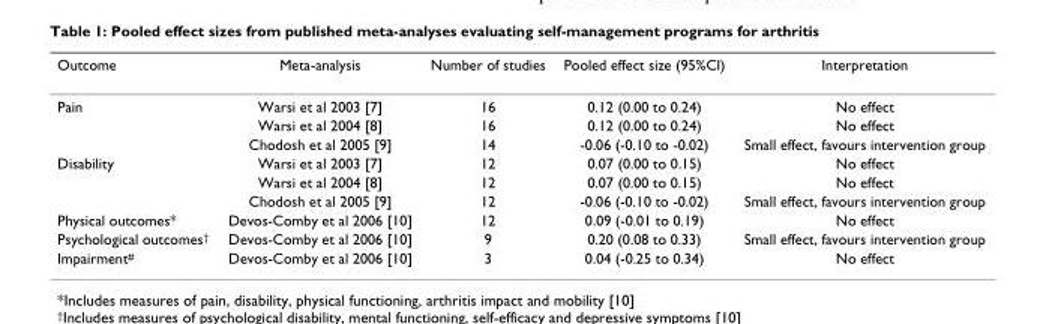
<table><thead><tr><td>Outcome</td><td>Meta-analysis</td><td>Number of studies</td><td>Pooled effect size (95%CI)</td><td>Interpretation</td></tr></thead><tbody><tr><td rowspan="3">Pain</td><td>Warsi et al 2003 [7]</td><td>16</td><td>0.12 (0.00 to 0.24)</td><td>No effect</td></tr><tr><td>Warsi et al 2004 [8]</td><td>16</td><td>0.12 (0.00 to 0.24)</td><td>No effect</td></tr><tr><td>Chodosh et al 2005 [9]</td><td>14</td><td>-0.06 (-0.10 to -0.02)</td><td>Small effect, favours intervention group</td></tr><tr><td rowspan="3">Disability</td><td>Warsi et al 2003 [7]</td><td>12</td><td>0.07 (0.00 to 0.15)</td><td>No effect</td></tr><tr><td>Warsi et al 2004 [8]</td><td>12</td><td>0.07 (0.00 to 0.15)</td><td>No effect</td></tr><tr><td>Chodosh et al 2005 [9]</td><td>12</td><td>-0.06 (-0.10 to -0.02)</td><td>Small effect, favours intervention group</td></tr><tr><td>Physical outcomes*</td><td>Devos-Comby et al 2006 [10]</td><td>12</td><td>0.09 (-0.01 to 0.19)</td><td>No effect</td></tr><tr><td>Psychological outcomes†</td><td>Devos-Comby et al 2006 [10]</td><td>9</td><td>0.20 (0.08 to 0.33)</td><td>Small effect, favours intervention group</td></tr><tr><td>Impairment#</td><td>Devos-Comby et al 2006 [10]</td><td>3</td><td>0.04 (-0.25 to 0.34)</td><td>No effect</td></tr></tbody></table>